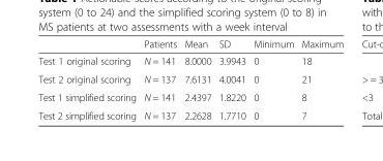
<table><thead><tr><td></td><td>Patients</td><td>Mean</td><td>SD</td><td>Minimum</td><td>Maximum</td></tr></thead><tbody><tr><td>Test 1 original scoring</td><td>N = 141</td><td>8.0000</td><td>3.9943</td><td>0</td><td>18</td></tr><tr><td>Test 2 original scoring</td><td>N = 137</td><td>7.6131</td><td>4.0041</td><td>0</td><td>21</td></tr><tr><td>Test 1 simplified scoring</td><td>N = 141</td><td>2.4397</td><td>1.8220</td><td>0</td><td>8</td></tr><tr><td>Test 2 simplified scoring</td><td>N = 137</td><td>2.2628</td><td>1.7710</td><td>0</td><td>7</td></tr></tbody></table>